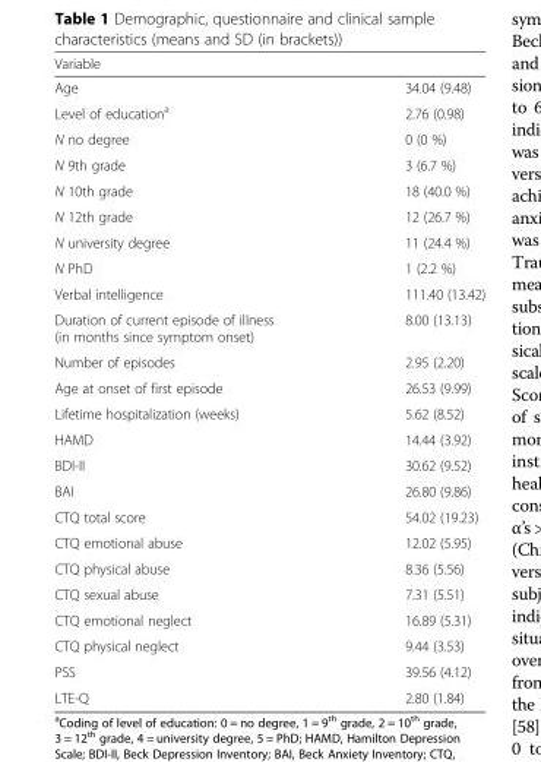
<table><thead><tr><td>Variable</td><td></td></tr></thead><tbody><tr><td>Age</td><td>34.04 (9.48)</td></tr><tr><td>Level of education<sup>a</sup></td><td>2.76 (0.98)</td></tr><tr><td>N no degree</td><td>0 (0 %)</td></tr><tr><td>N 9th grade</td><td>3 (6.7 %)</td></tr><tr><td>N 10th grade</td><td>18 (40.0 %)</td></tr><tr><td>N 12th grade</td><td>12 (26.7 %)</td></tr><tr><td>N university degree</td><td>11 (24.4 %)</td></tr><tr><td>N PhD</td><td>1 (2.2 %)</td></tr><tr><td>Verbal intelligence</td><td>111.40 (13.42)</td></tr><tr><td>Duration of current episode of illness (in months since symptom onset)</td><td>8.00 (13.13)</td></tr><tr><td>Number of episodes</td><td>2.95 (2.20)</td></tr><tr><td>Age at onset of first episode</td><td>26.53 (9.99)</td></tr><tr><td>Lifetime hospitalization (weeks)</td><td>5.62 (8.52)</td></tr><tr><td>HAMD</td><td>14.44 (3.92)</td></tr><tr><td>BDI-II</td><td>30.62 (9.52)</td></tr><tr><td>BAI</td><td>26.80 (9.86)</td></tr><tr><td>CTQ total score</td><td>54.02 (19.23)</td></tr><tr><td>CTQ emotional abuse</td><td>12.02 (5.95)</td></tr><tr><td>CTQ physical abuse</td><td>8.36 (5.56)</td></tr><tr><td>CTQ sexual abuse</td><td>7.31 (5.51)</td></tr><tr><td>CTQ emotional neglect</td><td>16.89 (5.31)</td></tr><tr><td>CTQ physical neglect</td><td>9.44 (3.53)</td></tr><tr><td>PSS</td><td>39.56 (4.12)</td></tr><tr><td>LTE-Q</td><td>2.80 (1.84)</td></tr></tbody></table>